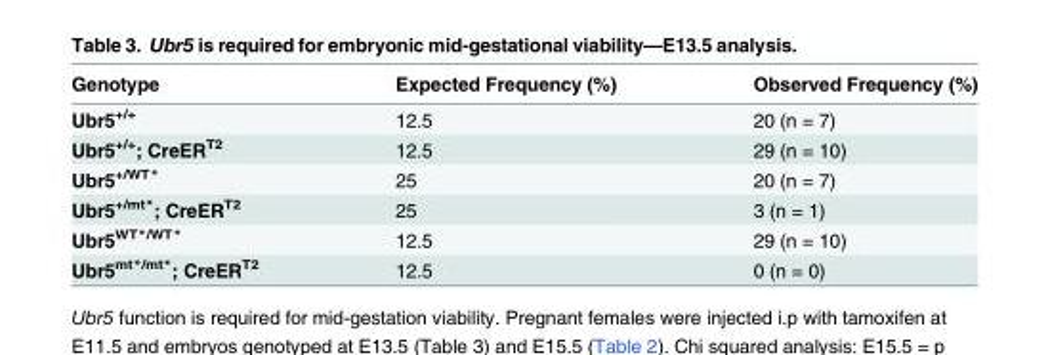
<table><thead><tr><td>Genotype</td><td>Expected Frequency (%)</td><td>Observed Frequency (%)</td></tr></thead><tbody><tr><td>Ubr5<sup>+/+</sup></td><td>12.5</td><td>20 (n = 7)</td></tr><tr><td>Ubr5<sup>+/+</sup>; CreER<sup>T2</sup></td><td>12.5</td><td>29 (n = 10)</td></tr><tr><td>Ubr5<sup>+/WT*</sup></td><td>25</td><td>20 (n = 7)</td></tr><tr><td>Ubr5<sup>+/mt*</sup>; CreER<sup>T2</sup></td><td>25</td><td>3 (n = 1)</td></tr><tr><td>Ubr5<sup>WT*/WT*</sup></td><td>12.5</td><td>29 (n = 10)</td></tr><tr><td>Ubr5<sup>mt*/mt*</sup>; CreER<sup>T2</sup></td><td>12.5</td><td>0 (n = 0)</td></tr></tbody></table>